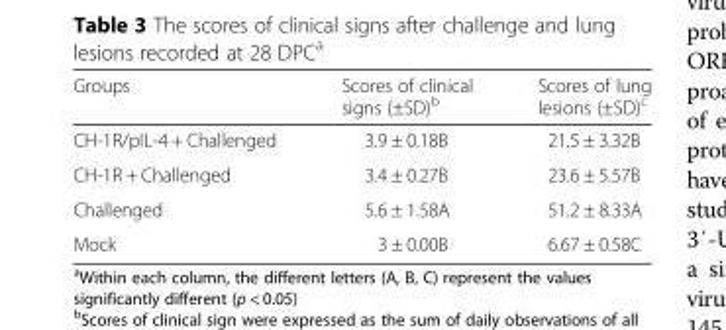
<table><thead><tr><td>Groups</td><td>Scores of clinical signs (±SD)<sup>b</sup></td><td>Scores of lung lesions (±SD)<sup>c</sup></td></tr></thead><tbody><tr><td>CH-1R/pIL-4 + Challenged</td><td>3.9 ± 0.18B</td><td>21.5 ± 3.32B</td></tr><tr><td>CH-1R + Challenged</td><td>3.4 ± 0.27B</td><td>23.6 ± 5.57B</td></tr><tr><td>Challenged</td><td>5.6 ± 1.58A</td><td>51.2 ± 8.33A</td></tr><tr><td>Mock</td><td>3 ± 0.00B</td><td>6.67 ± 0.58C</td></tr></tbody></table>